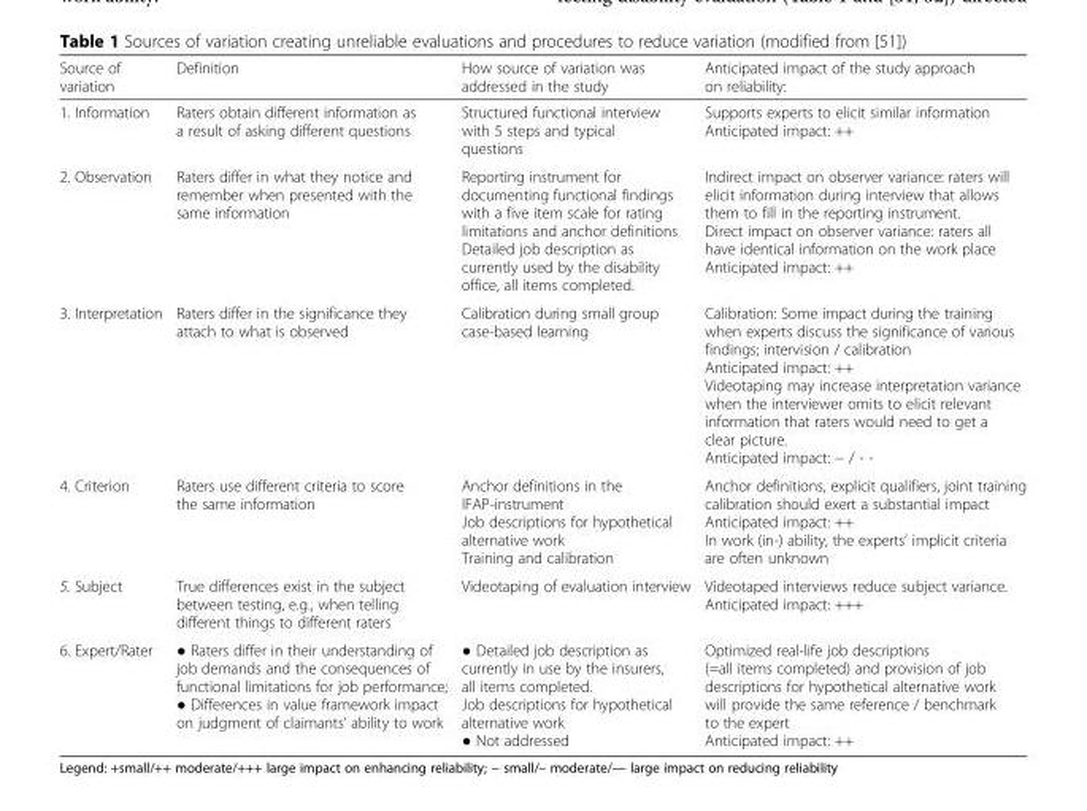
<table><thead><tr><td>Source of variation</td><td>Definition</td><td>How source of variation was addressed in the study</td><td>Anticipated impact of the study approach on reliability:</td></tr></thead><tbody><tr><td>1. Information</td><td>Raters obtain different information as a result of asking different questions</td><td>Structured functional interview with 5 steps and typical questions</td><td>Supports experts to elicit similar information Anticipated impact: ++</td></tr><tr><td>2. Observation</td><td>Raters differ in what they notice and remember when presented with the same information</td><td>Reporting instrument for documenting functional findings with a five item scale for rating limitations and anchor definitions Detailed job description as currently used by the disability office, all items completed.</td><td>Indirect impact on observer variance: raters will elicit information during interview that allows them to fill in the reporting instrument. Direct impact on observer variance: raters all have identical information on the work place Anticipated impact: ++</td></tr><tr><td>3. Interpretation</td><td>Raters differ in the significance they attach to what is observed</td><td>Calibration during small group case-based learning</td><td>Calibration: Some impact during the training when experts discuss the significance of various findings; intervision / calibration Anticipated impact: ++ Videotaping may increase interpretation variance when the interviewer omits to elicit relevant information that raters would need to get a clear picture. Anticipated impact: − / - -</td></tr><tr><td>4. Criterion</td><td>Raters use different criteria to score the same information</td><td>Anchor definitions in the IFAP-instrument Job descriptions for hypothetical alternative work Training and calibration</td><td>Anchor definitions, explicit qualifiers, joint training calibration should exert a substantial impact Anticipated impact: ++ In work (in-) ability, the experts’ implicit criteria are often unknown</td></tr><tr><td>5. Subject</td><td>True differences exist in the subject between testing, e.g., when telling different things to different raters</td><td>Videotaping of evaluation interview</td><td>Videotaped interviews reduce subject variance. Anticipated impact: +++</td></tr><tr><td>6. Expert/Rater</td><td>● Raters differ in their understanding of job demands and the consequences of functional limitations for job performance; ● Differences in value framework impact on judgment of claimants’ ability to work</td><td>● Detailed job description as currently in use by the insurers, all items completed. Job descriptions for hypothetical alternative work ● Not addressed</td><td>Optimized real-life job descriptions (=all items completed) and provision of job descriptions for hypothetical alternative work will provide the same reference / benchmark to the expert Anticipated impact: ++</td></tr></tbody></table>